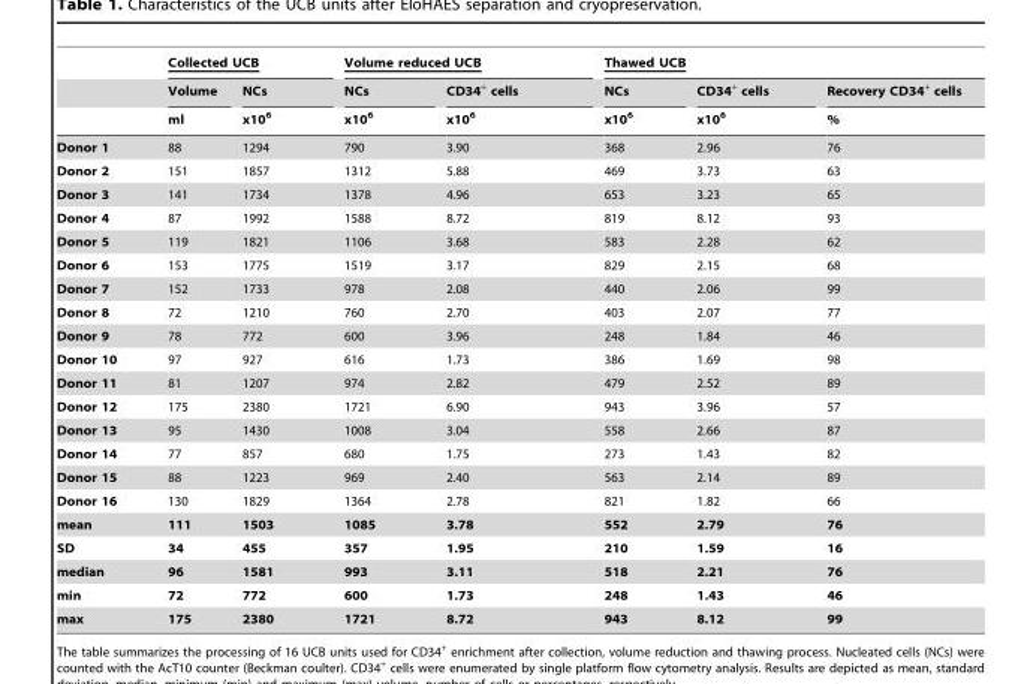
<table><thead><tr><td rowspan="3"></td><td colspan="2">Collected UCB</td><td colspan="2">Volume reduced UCB</td><td colspan="3">Thawed UCB</td></tr><tr><td rowspan="2">Volume ml</td><td rowspan="2">NCs x10<sup>6</sup></td><td rowspan="2">NCs x10<sup>6</sup></td><td rowspan="2">CD34<sup>+</sup> cells x10<sup>6</sup></td><td rowspan="2">NCs x10<sup>6</sup></td><td rowspan="2">CD34<sup>+</sup> cells x10<sup>6</sup></td><td rowspan="2">Recovery CD34<sup>+</sup> cells %</td></tr><tr></tr></thead><tbody><tr><td>Donor 1</td><td>88</td><td>1294</td><td>790</td><td>3.90</td><td>368</td><td>2.96</td><td>76</td></tr><tr><td>Donor 2</td><td>151</td><td>1857</td><td>1312</td><td>5.88</td><td>469</td><td>3.73</td><td>63</td></tr><tr><td>Donor 3</td><td>141</td><td>1734</td><td>1378</td><td>4.96</td><td>653</td><td>3.23</td><td>65</td></tr><tr><td>Donor 4</td><td>87</td><td>1992</td><td>1588</td><td>8.72</td><td>819</td><td>8.12</td><td>93</td></tr><tr><td>Donor 5</td><td>119</td><td>1821</td><td>1106</td><td>3.68</td><td>583</td><td>2.28</td><td>62</td></tr><tr><td>Donor 6</td><td>153</td><td>1775</td><td>1519</td><td>3.17</td><td>829</td><td>2.15</td><td>68</td></tr><tr><td>Donor 7</td><td>152</td><td>1733</td><td>978</td><td>2.08</td><td>440</td><td>2.06</td><td>99</td></tr><tr><td>Donor 8</td><td>72</td><td>1210</td><td>760</td><td>2.70</td><td>403</td><td>2.07</td><td>77</td></tr><tr><td>Donor 9</td><td>78</td><td>772</td><td>600</td><td>3.96</td><td>248</td><td>1.84</td><td>46</td></tr><tr><td>Donor 10</td><td>97</td><td>927</td><td>616</td><td>1.73</td><td>386</td><td>1.69</td><td>98</td></tr><tr><td>Donor 11</td><td>81</td><td>1207</td><td>974</td><td>2.82</td><td>479</td><td>2.52</td><td>89</td></tr><tr><td>Donor 12</td><td>175</td><td>2380</td><td>1721</td><td>6.90</td><td>943</td><td>3.96</td><td>57</td></tr><tr><td>Donor 13</td><td>95</td><td>1430</td><td>1008</td><td>3.04</td><td>558</td><td>2.66</td><td>87</td></tr><tr><td>Donor 14</td><td>77</td><td>857</td><td>680</td><td>1.75</td><td>273</td><td>1.43</td><td>82</td></tr><tr><td>Donor 15</td><td>88</td><td>1223</td><td>969</td><td>2.40</td><td>563</td><td>2.14</td><td>89</td></tr><tr><td>Donor 16</td><td>130</td><td>1829</td><td>1364</td><td>2.78</td><td>821</td><td>1.82</td><td>66</td></tr><tr><td>mean</td><td>111</td><td>1503</td><td>1085</td><td>3.78</td><td>552</td><td>2.79</td><td>76</td></tr><tr><td>SD</td><td>34</td><td>455</td><td>357</td><td>1.95</td><td>210</td><td>1.59</td><td>16</td></tr><tr><td>median</td><td>96</td><td>1581</td><td>993</td><td>3.11</td><td>518</td><td>2.21</td><td>76</td></tr><tr><td>min</td><td>72</td><td>772</td><td>600</td><td>1.73</td><td>248</td><td>1.43</td><td>46</td></tr><tr><td>max</td><td>175</td><td>2380</td><td>1721</td><td>8.72</td><td>943</td><td>8.12</td><td>99</td></tr></tbody></table>